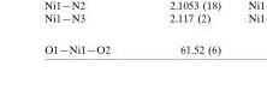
<table><tbody><tr><td>O1—Ni1—O2</td><td>61.52 (6)</td></tr></tbody></table>